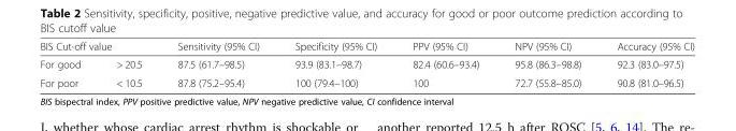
<table><thead><tr><td colspan="2">BIS Cut-off value</td><td rowspan="2">Sensitivity (95% CI) 87.5 (61.7–98.5)</td><td rowspan="2">Specificity (95% CI) 93.9 (83.1–98.7)</td><td rowspan="2">PPV (95% CI) 82.4 (60.6–93.4)</td><td rowspan="2">NPV (95% CI) 95.8 (86.3–98.8)</td><td rowspan="2">Accuracy (95% CI) 92.3 (83.0–97.5)</td></tr><tr><td>For good</td><td>&gt; 20.5</td></tr></thead><tbody><tr><td>For poor</td><td>&lt; 10.5</td><td>87.8 (75.2–95.4)</td><td>100 (79.4–100)</td><td>100</td><td>72.7 (55.8–85.0)</td><td>90.8 (81.0–96.5)</td></tr></tbody></table>